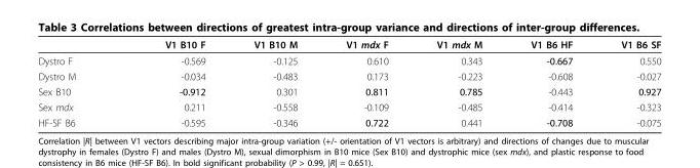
<table><thead><tr><td></td><td>V1 B10 F</td><td>V1 B10 M</td><td>V1 mdx F</td><td>V1 mdx M</td><td>V1 B6 HF</td><td>V1 B6 SF</td></tr></thead><tbody><tr><td>Dystro F</td><td>-0.569</td><td>-0.125</td><td>0.610</td><td>0.343</td><td>-0.667</td><td>0.550</td></tr><tr><td>Dystro M</td><td>-0.034</td><td>-0.483</td><td>0.173</td><td>-0.223</td><td>-0.608</td><td>-0.027</td></tr><tr><td>Sex B10</td><td>-0.912</td><td>0.301</td><td>0.811</td><td>0.785</td><td>-0.443</td><td>0.927</td></tr><tr><td>Sex mdx</td><td>0.211</td><td>-0.558</td><td>-0.109</td><td>-0.485</td><td>-0.414</td><td>-0.323</td></tr><tr><td>HF-SF B6</td><td>-0.595</td><td>-0.346</td><td>0.722</td><td>0.441</td><td>-0.708</td><td>-0.075</td></tr></tbody></table>